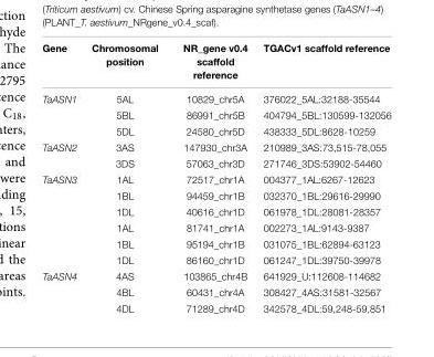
<table><thead><tr><td>Gene</td><td>Chromosomal position</td><td>NR_gene v0.4 scaffold reference</td><td>TGACv1 scaffold reference</td></tr></thead><tbody><tr><td rowspan="3">TaASN1</td><td>5AL</td><td>10829_chr5A</td><td>376022_5AL:32188-35544</td></tr><tr><td>5BL</td><td>86991_chr5B</td><td>404794_5BL:130599-132056</td></tr><tr><td>5DL</td><td>24580_chr5D</td><td>438333_5DL:8628-10259</td></tr><tr><td rowspan="2">TaASN2</td><td>3AS</td><td>147930_chr3A</td><td>210989_3AS:73,515-78,055</td></tr><tr><td>3DS</td><td>57063_chr3D</td><td>271746_3DS:53902-54460</td></tr><tr><td rowspan="6">TaASN3</td><td>1AL</td><td>72517_chr1A</td><td>004377_1AL:6267-12623</td></tr><tr><td>1BL</td><td>94459_chr1B</td><td>032370_1BL:29616-29990</td></tr><tr><td>1DL</td><td>40616_chr1D</td><td>061978_1DL:28081-28357</td></tr><tr><td>1AL</td><td>81741_chr1A</td><td>002273_1AL:9143-9387</td></tr><tr><td>1BL</td><td>95194_chr1B</td><td>031075_1BL:62894-63123</td></tr><tr><td>1DL</td><td>86160_chr1D</td><td>061247_1DL:39750-39978</td></tr><tr><td rowspan="3">TaASN4</td><td>4AS</td><td>103865_chr4B</td><td>641929_U:112608-114682</td></tr><tr><td>4BL</td><td>60431_chr4A</td><td>308427_4AS:31581-32567</td></tr><tr><td>4DL</td><td>71289_chr4D</td><td>342578_4DL:59,248-59,851</td></tr></tbody></table>